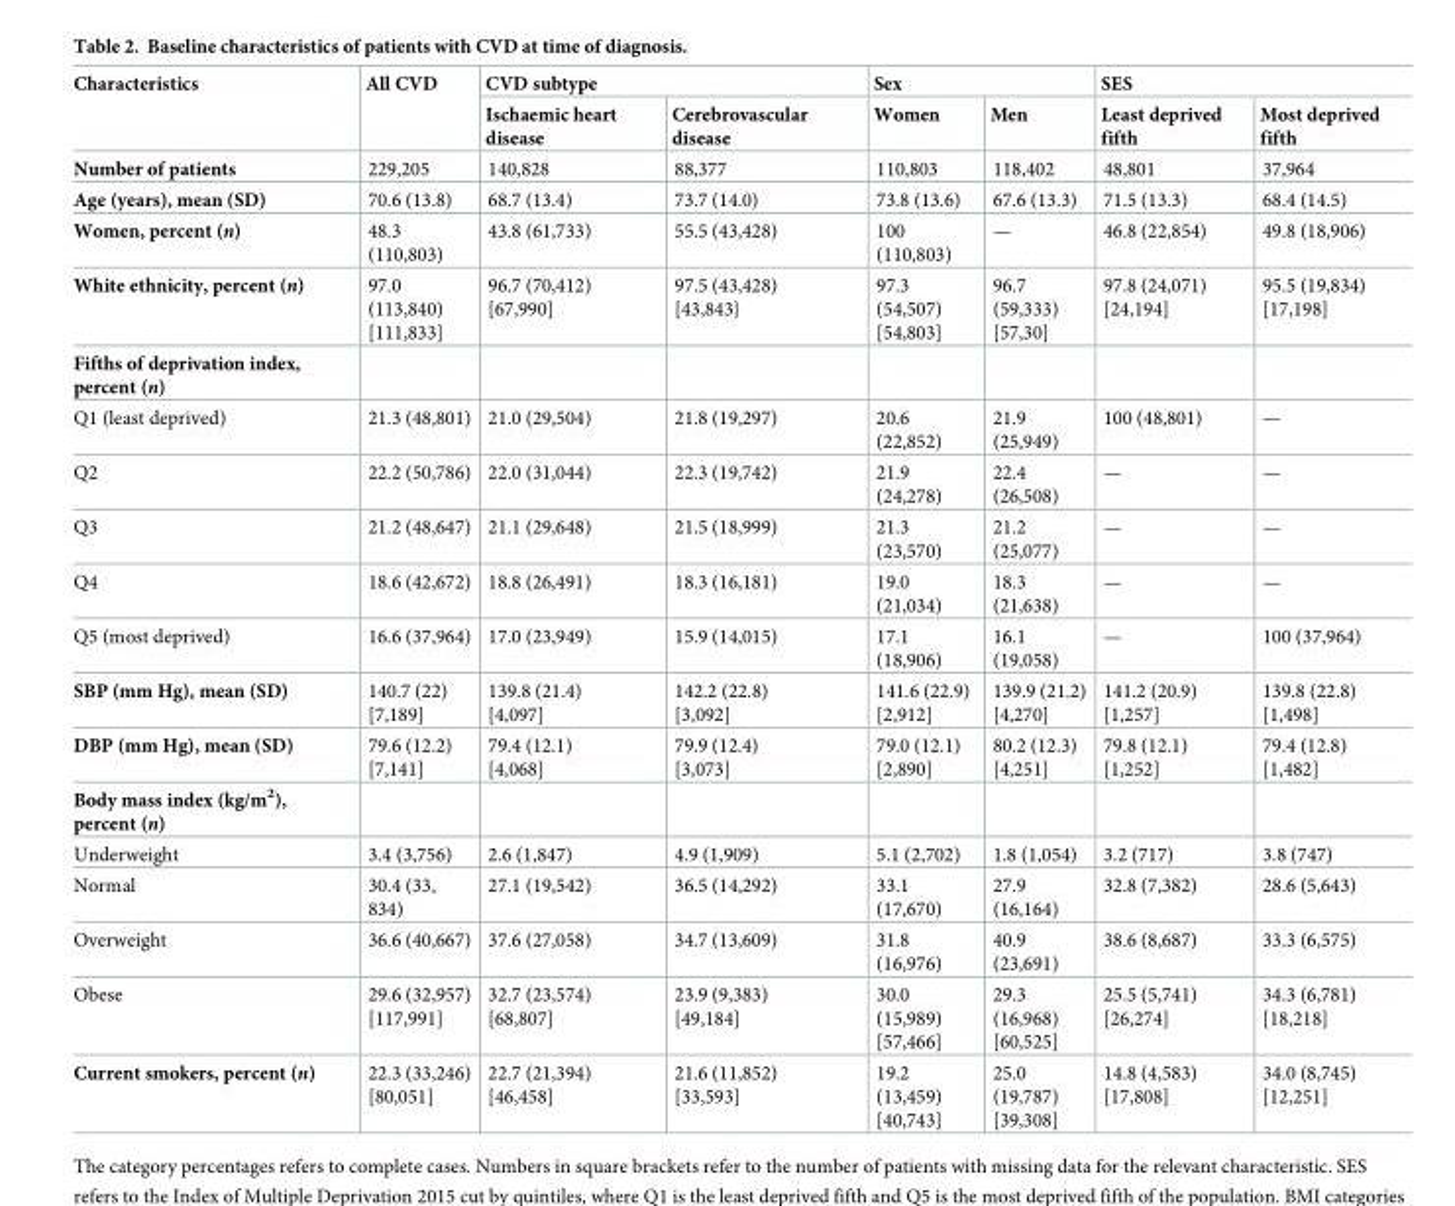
<table><thead><tr><td rowspan="2">Characteristics</td><td rowspan="2">All CVD</td><td colspan="2">CVD subtype</td><td colspan="2">Sex</td><td colspan="2">SES</td></tr><tr><td>Ischaemic heart disease</td><td>Cerebrovascular disease</td><td>Women</td><td>Men</td><td>Least deprived fifth</td><td>Most deprived fifth</td></tr></thead><tbody><tr><td>Number of patients</td><td>229,205</td><td>140,828</td><td>88,377</td><td>110,803</td><td>118,402</td><td>48,801</td><td>37,964</td></tr><tr><td>Age (years), mean (SD)</td><td>70.6 (13.8)</td><td>68.7 (13.4)</td><td>73.7 (14.0)</td><td>73.8 (13.6)</td><td>67.6 (13.3)</td><td>71.5 (13.3)</td><td>68.4 (14.5)</td></tr><tr><td>Women, percent (n)</td><td>48.3 (110,803)</td><td>43.8 (61,733)</td><td>55.5 (43,428)</td><td>100 (110,803)</td><td>—</td><td>46.8 (22,854)</td><td>49.8 (18,906)</td></tr><tr><td>White ethnicity, percent (n)</td><td>97.0 (113,840) [111,833]</td><td>96.7 (70,412) [67,990]</td><td>97.5 (43,428) [43,843}</td><td>97.3 (54,507) [54,803]</td><td>96.7 (59,333) [57,30]</td><td>97.8 (24,071) [24,194]</td><td>95.5 (19,834) [17,198]</td></tr><tr><td colspan="8">Fifths of deprivation index, percent (n)</td></tr><tr><td>Q1 (least deprived)</td><td>21.3 (48,801)</td><td>21.0 (29,504)</td><td>21.8 (19,297)</td><td>20.6 (22,852)</td><td>21.9 (25,949)</td><td>100 (48,801)</td><td>—</td></tr><tr><td>Q2</td><td>22.2 (50,786)</td><td>22.0 (31,044)</td><td>22.3 (19,742)</td><td>21.9 (24,278)</td><td>22.4 (26,508)</td><td>—</td><td>—</td></tr><tr><td>Q3</td><td>21.2 (48,647)</td><td>21.1 (29,648)</td><td>21.5 (18,999)</td><td>21.3 (23,570)</td><td>21.2 (25,077)</td><td>—</td><td>—</td></tr><tr><td>Q4</td><td>18.6 (42,672)</td><td>18.8 (26,491)</td><td>18.3 (16,181)</td><td>19.0 (21,034)</td><td>18.3 (21,638)</td><td>—</td><td>—</td></tr><tr><td>Q5 (most deprived)</td><td>16.6 (37,964)</td><td>17.0 (23,949)</td><td>15.9 (14,015)</td><td>17.1 (18,906)</td><td>16.1 (19,058)</td><td>—</td><td>100 (37,964)</td></tr><tr><td>SBP (mm Hg), mean (SD)</td><td>140.7 (22) [7,189]</td><td>139.8 (21.4) [4,097]</td><td>142.2 (22.8) [3,092]</td><td>141.6 (22.9) [2,912]</td><td>139.9 (21.2) [4,270]</td><td>141.2 (20.9) [1,257]</td><td>139.8 (22.8) [1,498]</td></tr><tr><td>DBP (mm Hg), mean (SD)</td><td>79.6 (12.2) [7,141]</td><td>79.4 (12.1) [4,068]</td><td>79.9 (12.4) [3,073]</td><td>79.0 (12.1) [2,890]</td><td>80.2 (12.3) [4,251]</td><td>79.8 (12.1) [1,252]</td><td>79.4 (12.8) [1,482]</td></tr><tr><td colspan="8">Body mass index (kg/m<sup>2</sup>), percent (n)</td></tr><tr><td>Underweight</td><td>3.4 (3,756)</td><td>2.6 (1,847)</td><td>4.9 (1,909)</td><td>5.1 (2,702)</td><td>1.8 (1,054)</td><td>3.2 (717)</td><td>3.8 (747)</td></tr><tr><td>Normal</td><td>30.4 (33, 834)</td><td>27.1 (19,542)</td><td>36.5 (14,292)</td><td>33.1 (17,670)</td><td>27.9 (16,164)</td><td>32.8 (7,382)</td><td>28.6 (5,643)</td></tr><tr><td>Overweight</td><td>36.6 (40,667)</td><td>37.6 (27,058)</td><td>34.7 (13,609)</td><td>31.8 (16,976)</td><td>40.9 (23,691)</td><td>38.6 (8,687)</td><td>33.3 (6,575)</td></tr><tr><td>Obese</td><td>29.6 (32,957) [117,991]</td><td>32.7 (23,574) [68,807]</td><td>23.9 (9,383) [49,184]</td><td>30.0 (15,989) [57,466]</td><td>29.3 (16,968) [60,525]</td><td>25.5 (5,741) [26,274]</td><td>34.3 (6,781) [18,218]</td></tr><tr><td>Current smokers, percent (n)</td><td>22.3 (33,246) [80,051]</td><td>22.7 (21,394) [46,458]</td><td>21.6 (11,852) [33,593]</td><td>19.2 (13,459) [40,743]</td><td>25.0 (19,787) [39,308]</td><td>14.8 (4,583) [17,808]</td><td>34.0 (8,745) [12,251]</td></tr></tbody></table>